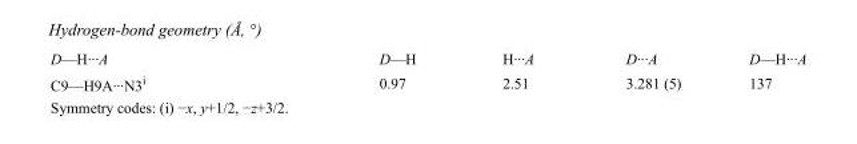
<table><tbody><tr><td>D—H···A</td><td>D—H</td><td>H···A</td><td>D···A</td><td>D—H···A</td></tr><tr><td>C9—H9A···N3<sup>i</sup></td><td>0.97</td><td>2.51</td><td>3.281 (5)</td><td>137</td></tr></tbody></table>